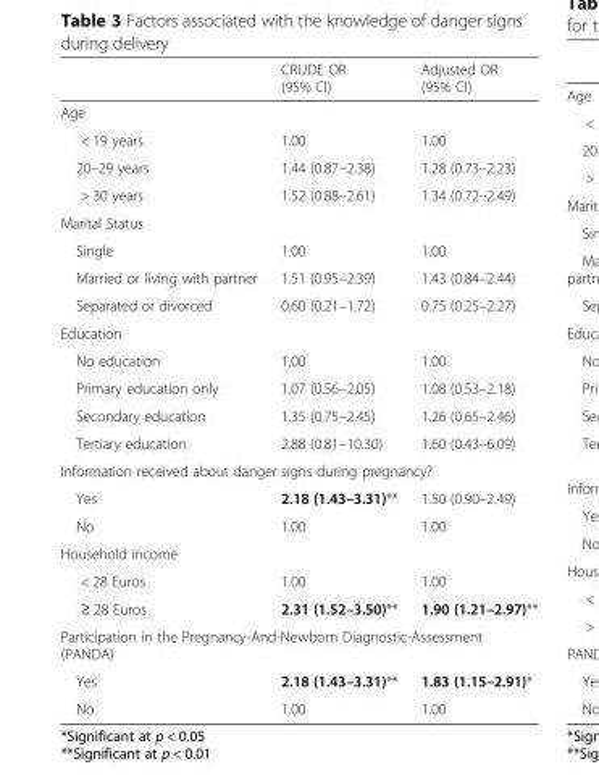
<table><thead><tr><td></td><td>CRUDE OR (95% Cl)</td><td>Adjusted OR (95% Cl)</td></tr></thead><tbody><tr><td colspan="3">Age</td></tr><tr><td>&lt; 19 years</td><td>1.00</td><td>1.00</td></tr><tr><td>20–29 years</td><td>1.44 (0.87–2.38)</td><td>1.28 (0.73–2.23)</td></tr><tr><td>&gt; 30 years</td><td>1.52 (0.88–2.61)</td><td>1.34 (0.72–2.49)</td></tr><tr><td colspan="3">Marital Status</td></tr><tr><td>Single</td><td>1.00</td><td>1.00</td></tr><tr><td>Married or living with partner</td><td>1.51 (0.95–2.39)</td><td>1.43 (0.84–2.44)</td></tr><tr><td>Separated or divorced</td><td>0.60 (0.21–1.72)</td><td>0.75 (0.25–2.27)</td></tr><tr><td colspan="3">Education</td></tr><tr><td>No education</td><td>1.00</td><td>1.00</td></tr><tr><td>Primary education only</td><td>1.07 (0.56–2.05)</td><td>1.08 (0.53–2.18)</td></tr><tr><td>Secondary education</td><td>1.35 (0.75–2.45)</td><td>1.26 (0.65–2.46)</td></tr><tr><td>Tertiary education</td><td>2.88 (0.81–10.30)</td><td>1.60 (0.43–6.09)</td></tr><tr><td colspan="3">Information received about danger signs during pregnancy?</td></tr><tr><td>Yes</td><td>2.18 (1.43–3.31)**</td><td>1.50 (0.90–2.49)</td></tr><tr><td>No</td><td>1.00</td><td>1.00</td></tr><tr><td colspan="3">Household income</td></tr><tr><td>&lt; 28 Euros</td><td>1.00</td><td>1.00</td></tr><tr><td>≥ 28 Euros</td><td>2.31 (1.52–3.50)**</td><td>1.90 (1.21–2.97)**</td></tr><tr><td colspan="3">Participation in the Pregnancy-And-Newborn Diagnostic-Assessment (PANDA)</td></tr><tr><td>Yes</td><td>2.18 (1.43–3.31)**</td><td>1.83 (1.15–2.91)*</td></tr><tr><td>No</td><td>1.00</td><td>1.00</td></tr></tbody></table>